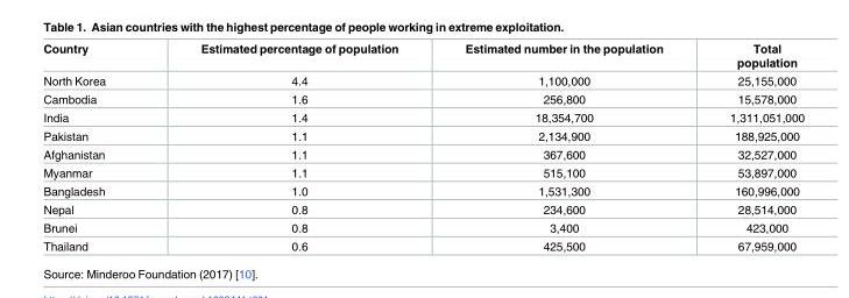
<table><thead><tr><td>Country</td><td>Estimated percentage of population</td><td>Estimated number in the population</td><td>Total population</td></tr></thead><tbody><tr><td>North Korea</td><td>4.4</td><td>1,100,000</td><td>25,155,000</td></tr><tr><td>Cambodia</td><td>1.6</td><td>256,800</td><td>15,578,000</td></tr><tr><td>India</td><td>1.4</td><td>18,354,700</td><td>1,311,051,000</td></tr><tr><td>Pakistan</td><td>1.1</td><td>2,134,900</td><td>188,925,000</td></tr><tr><td>Afghanistan</td><td>1.1</td><td>367,600</td><td>32,527,000</td></tr><tr><td>Myanmar</td><td>1.1</td><td>515,100</td><td>53,897,000</td></tr><tr><td>Bangladesh</td><td>1.0</td><td>1,531,300</td><td>160,996,000</td></tr><tr><td>Nepal</td><td>0.8</td><td>234,600</td><td>28,514,000</td></tr><tr><td>Brunei</td><td>0.8</td><td>3,400</td><td>423,000</td></tr><tr><td>Thailand</td><td>0.6</td><td>425,500</td><td>67,959,000</td></tr></tbody></table>